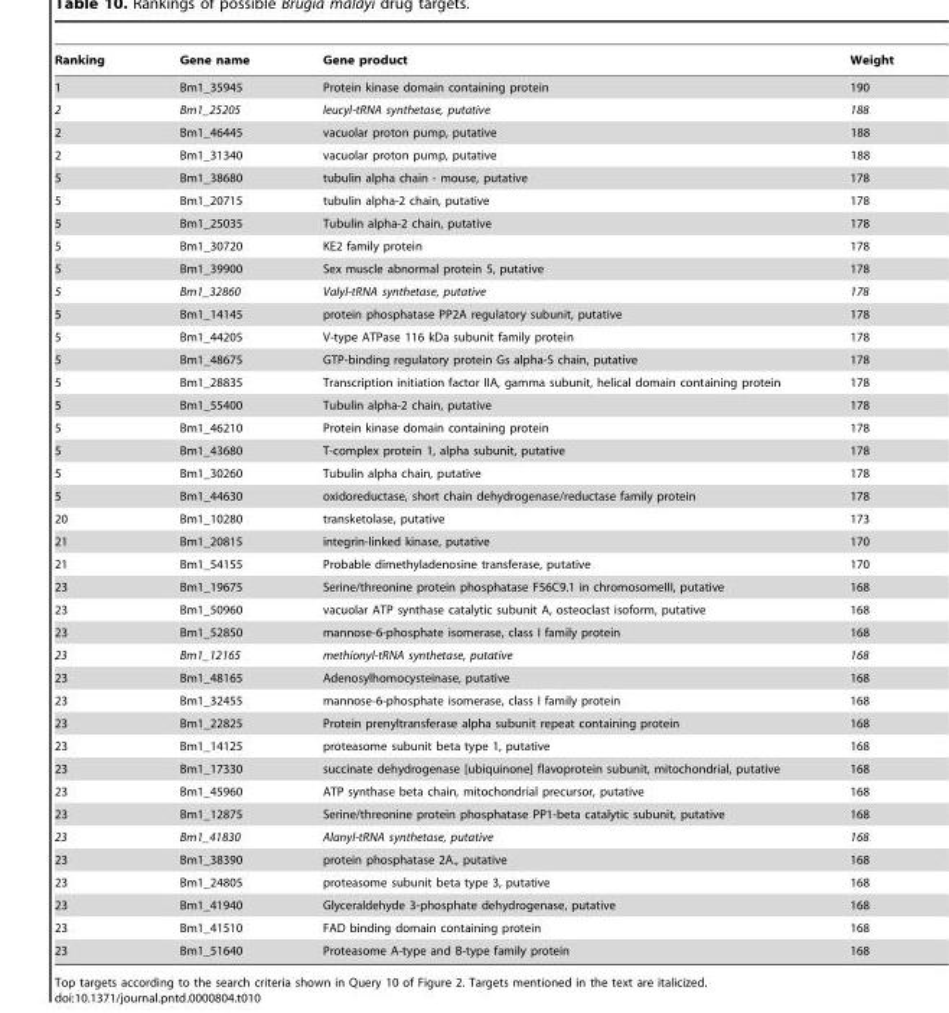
<table><thead><tr><td>Ranking</td><td>Gene name</td><td>Gene product</td><td>Weight</td></tr></thead><tbody><tr><td>1</td><td>Bm1_35945</td><td>Protein kinase domain containing protein</td><td>190</td></tr><tr><td>2</td><td>Bm1_25205</td><td>leucyl-tRNA synthetase, putative</td><td>188</td></tr><tr><td>2</td><td>Bm1_46445</td><td>vacuolar proton pump, putative</td><td>188</td></tr><tr><td>2</td><td>Bm1_31340</td><td>vacuolar proton pump, putative</td><td>188</td></tr><tr><td>5</td><td>Bm1_38680</td><td>tubulin alpha chain - mouse, putative</td><td>178</td></tr><tr><td>5</td><td>Bm1_20715</td><td>tubulin alpha-2 chain, putative</td><td>178</td></tr><tr><td>5</td><td>Bm1_25035</td><td>Tubulin alpha-2 chain, putative</td><td>178</td></tr><tr><td>5</td><td>Bm1_30720</td><td>KE2 family protein</td><td>178</td></tr><tr><td>5</td><td>Bm1_39900</td><td>Sex muscle abnormal protein 5, putative</td><td>178</td></tr><tr><td>5</td><td>Bm1_32860</td><td>Valyl-tRNA synthetase, putative</td><td>178</td></tr><tr><td>5</td><td>Bm1_14145</td><td>protein phosphatase PP2A regulatory subunit, putative</td><td>178</td></tr><tr><td>5</td><td>Bm1_44205</td><td>V-type ATPase 116 kDa subunit family protein</td><td>178</td></tr><tr><td>5</td><td>Bm1_48675</td><td>GTP-binding regulatory protein Gs alpha-S chain, putative</td><td>178</td></tr><tr><td>5</td><td>Bm1_28835</td><td>Transcription initiation factor IIA, gamma subunit, helical domain containing protein</td><td>178</td></tr><tr><td>5</td><td>Bm1_55400</td><td>Tubulin alpha-2 chain, putative</td><td>178</td></tr><tr><td>5</td><td>Bm1_46210</td><td>Protein kinase domain containing protein</td><td>178</td></tr><tr><td>5</td><td>Bm1_43680</td><td>T-complex protein 1, alpha subunit, putative</td><td>178</td></tr><tr><td>5</td><td>Bm1_30260</td><td>Tubulin alpha chain, putative</td><td>178</td></tr><tr><td>5</td><td>Bm1_44630</td><td>oxidoreductase, short chain dehydrogenase/reductase family protein</td><td>178</td></tr><tr><td>20</td><td>Bm1_10280</td><td>transketolase, putative</td><td>173</td></tr><tr><td>21</td><td>Bm1_20815</td><td>integrin-linked kinase, putative</td><td>170</td></tr><tr><td>21</td><td>Bm1_54155</td><td>Probable dimethyladenosine transferase, putative</td><td>170</td></tr><tr><td>23</td><td>Bm1_19675</td><td>Serine/threonine protein phosphatase F56C9.1 in chromosomeIII, putative</td><td>168</td></tr><tr><td>23</td><td>Bm1_50960</td><td>vacuolar ATP synthase catalytic subunit A, osteoclast isoform, putative</td><td>168</td></tr><tr><td>23</td><td>Bm1_52850</td><td>mannose-6-phosphate isomerase, class I family protein</td><td>168</td></tr><tr><td>23</td><td>Bm1_12165</td><td>methionyl-tRNA synthetase, putative</td><td>168</td></tr><tr><td>23</td><td>Bm1_48165</td><td>Adenosylhomocysteinase, putative</td><td>168</td></tr><tr><td>23</td><td>Bm1_32455</td><td>mannose-6-phosphate isomerase, class I family protein</td><td>168</td></tr><tr><td>23</td><td>Bm1_22825</td><td>Protein prenyltransferase alpha subunit repeat containing protein</td><td>168</td></tr><tr><td>23</td><td>Bm1_14125</td><td>proteasome subunit beta type 1, putative</td><td>168</td></tr><tr><td>23</td><td>Bm1_17330</td><td>succinate dehydrogenase [ubiquinone] flavoprotein subunit, mitochondrial, putative</td><td>168</td></tr><tr><td>23</td><td>Bm1_45960</td><td>ATP synthase beta chain, mitochondrial precursor, putative</td><td>168</td></tr><tr><td>23</td><td>Bm1_12875</td><td>Serine/threonine protein phosphatase PP1-beta catalytic subunit, putative</td><td>168</td></tr><tr><td>23</td><td>Bm1_41830</td><td>Alanyl-tRNA synthetase, putative</td><td>168</td></tr><tr><td>23</td><td>Bm1_38390</td><td>protein phosphatase 2A., putative</td><td>168</td></tr><tr><td>23</td><td>Bm1_24805</td><td>proteasome subunit beta type 3, putative</td><td>168</td></tr><tr><td>23</td><td>Bm1_41940</td><td>Glyceraldehyde 3-phosphate dehydrogenase, putative</td><td>168</td></tr><tr><td>23</td><td>Bm1_41510</td><td>FAD binding domain containing protein</td><td>168</td></tr><tr><td>23</td><td>Bm1_51640</td><td>Proteasome A-type and B-type family protein</td><td>168</td></tr></tbody></table>